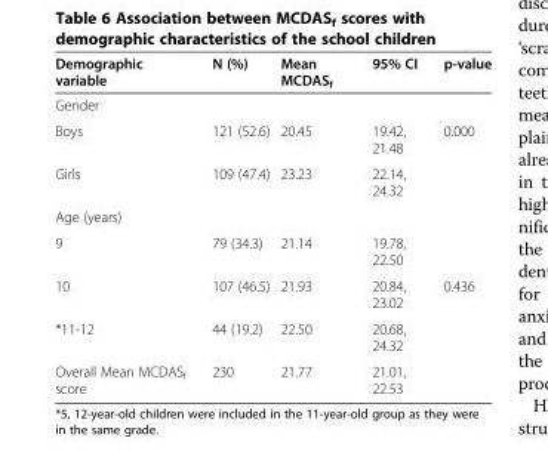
<table><thead><tr><td>Demographic variable</td><td>N (%)</td><td>Mean MCDAS<sub>f</sub></td><td>95% CI</td><td>p-value</td></tr></thead><tbody><tr><td colspan="5">Gender</td></tr><tr><td>Boys</td><td>121 (52.6)</td><td>20.45</td><td>19.42, 21.48</td><td>0.000</td></tr><tr><td>Girls</td><td>109 (47.4)</td><td>23.23</td><td>22.14, 24.32</td><td></td></tr><tr><td colspan="5">Age (years)</td></tr><tr><td>9</td><td>79 (34.3)</td><td>21.14</td><td>19.78, 22.50</td><td></td></tr><tr><td>10</td><td>107 (46.5)</td><td>21.93</td><td>20.84, 23.02</td><td>0.436</td></tr><tr><td>*11-12</td><td>44 (19.2)</td><td>22.50</td><td>20.68, 24.32</td><td></td></tr><tr><td>Overall Mean MCDAS<sub>f</sub> score</td><td>230</td><td>21.77</td><td>21.01, 22.53</td><td></td></tr></tbody></table>